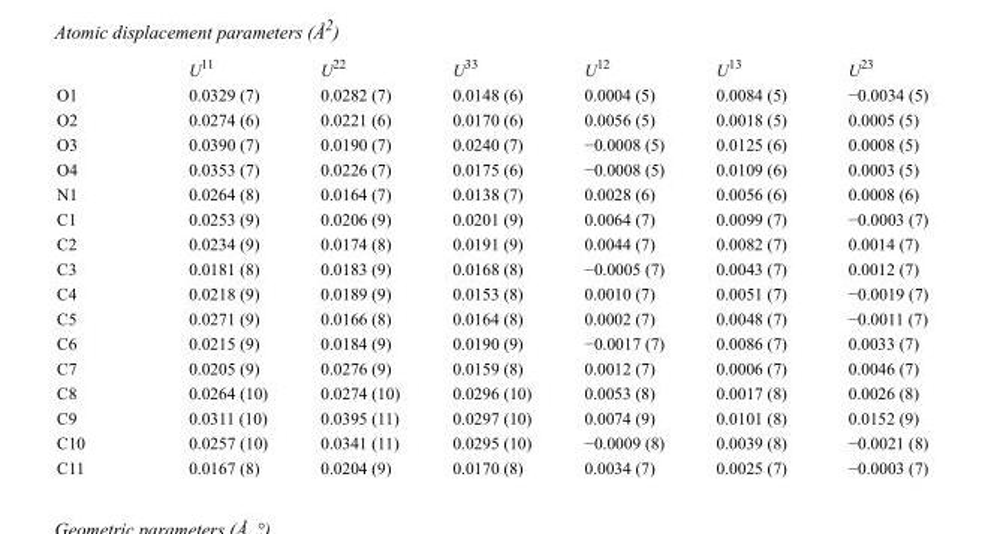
<table><thead><tr><td></td><td>U<sup>11</sup></td><td>U<sup>22</sup></td><td>U<sup>33</sup></td><td>U<sup>12</sup></td><td>U<sup>13</sup></td><td>U<sup>23</sup></td></tr></thead><tbody><tr><td>O1</td><td>0.0329 (7)</td><td>0.0282 (7)</td><td>0.0148 (6)</td><td>0.0004 (5)</td><td>0.0084 (5)</td><td>−0.0034 (5)</td></tr><tr><td>O2</td><td>0.0274 (6)</td><td>0.0221 (6)</td><td>0.0170 (6)</td><td>0.0056 (5)</td><td>0.0018 (5)</td><td>0.0005 (5)</td></tr><tr><td>O3</td><td>0.0390 (7)</td><td>0.0190 (7)</td><td>0.0240 (7)</td><td>−0.0008 (5)</td><td>0.0125 (6)</td><td>0.0008 (5)</td></tr><tr><td>O4</td><td>0.0353 (7)</td><td>0.0226 (7)</td><td>0.0175 (6)</td><td>−0.0008 (5)</td><td>0.0109 (6)</td><td>0.0003 (5)</td></tr><tr><td>N1</td><td>0.0264 (8)</td><td>0.0164 (7)</td><td>0.0138 (7)</td><td>0.0028 (6)</td><td>0.0056 (6)</td><td>0.0008 (6)</td></tr><tr><td>C1</td><td>0.0253 (9)</td><td>0.0206 (9)</td><td>0.0201 (9)</td><td>0.0064 (7)</td><td>0.0099 (7)</td><td>−0.0003 (7)</td></tr><tr><td>C2</td><td>0.0234 (9)</td><td>0.0174 (8)</td><td>0.0191 (9)</td><td>0.0044 (7)</td><td>0.0082 (7)</td><td>0.0014 (7)</td></tr><tr><td>C3</td><td>0.0181 (8)</td><td>0.0183 (9)</td><td>0.0168 (8)</td><td>−0.0005 (7)</td><td>0.0043 (7)</td><td>0.0012 (7)</td></tr><tr><td>C4</td><td>0.0218 (9)</td><td>0.0189 (9)</td><td>0.0153 (8)</td><td>0.0010 (7)</td><td>0.0051 (7)</td><td>−0.0019 (7)</td></tr><tr><td>C5</td><td>0.0271 (9)</td><td>0.0166 (8)</td><td>0.0164 (8)</td><td>0.0002 (7)</td><td>0.0048 (7)</td><td>−0.0011 (7)</td></tr><tr><td>C6</td><td>0.0215 (9)</td><td>0.0184 (9)</td><td>0.0190 (9)</td><td>−0.0017 (7)</td><td>0.0086 (7)</td><td>0.0033 (7)</td></tr><tr><td>C7</td><td>0.0205 (9)</td><td>0.0276 (9)</td><td>0.0159 (8)</td><td>0.0012 (7)</td><td>0.0006 (7)</td><td>0.0046 (7)</td></tr><tr><td>C8</td><td>0.0264 (10)</td><td>0.0274 (10)</td><td>0.0296 (10)</td><td>0.0053 (8)</td><td>0.0017 (8)</td><td>0.0026 (8)</td></tr><tr><td>C9</td><td>0.0311 (10)</td><td>0.0395 (11)</td><td>0.0297 (10)</td><td>0.0074 (9)</td><td>0.0101 (8)</td><td>0.0152 (9)</td></tr><tr><td>C10</td><td>0.0257 (10)</td><td>0.0341 (11)</td><td>0.0295 (10)</td><td>−0.0009 (8)</td><td>0.0039 (8)</td><td>−0.0021 (8)</td></tr><tr><td>C11</td><td>0.0167 (8)</td><td>0.0204 (9)</td><td>0.0170 (8)</td><td>0.0034 (7)</td><td>0.0025 (7)</td><td>−0.0003 (7)</td></tr></tbody></table>